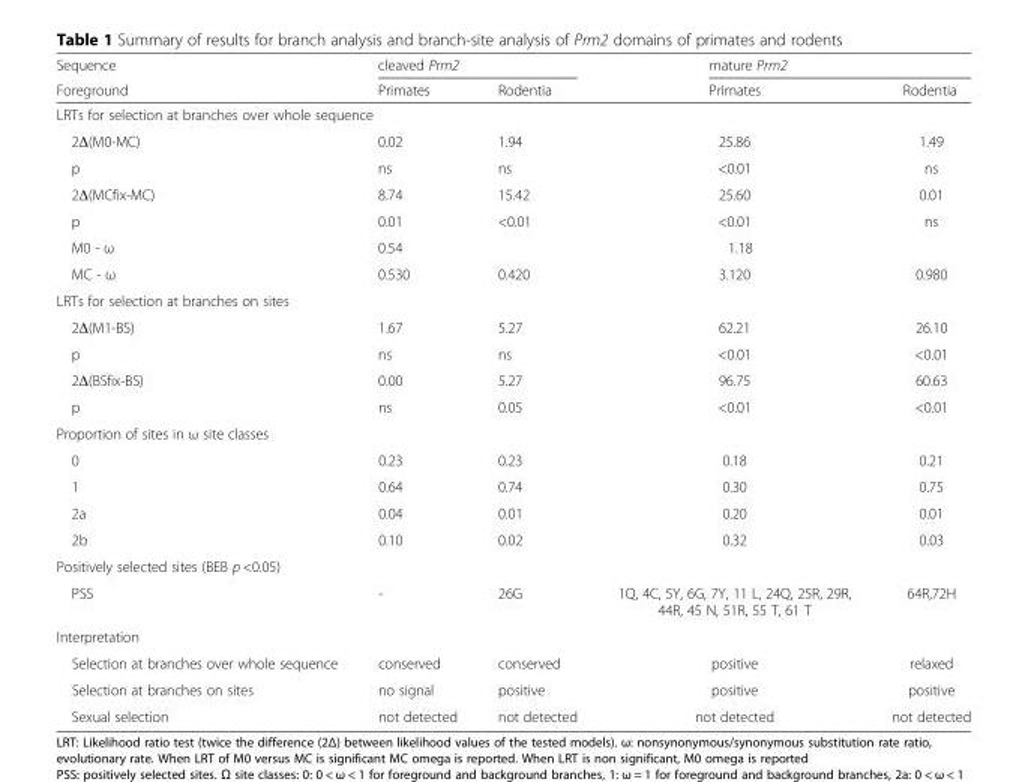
<table><thead><tr><td rowspan="2">Sequence Foreground</td><td colspan="2">cleaved Prm2</td><td colspan="2">mature Prm2</td></tr><tr><td>Primates</td><td>Rodentia</td><td>Primates</td><td>Rodentia</td></tr></thead><tbody><tr><td colspan="5">LRTs for selection at branches over whole sequence</td></tr><tr><td>2Δ(M0-MC)</td><td>0.02</td><td>1.94</td><td>25.86</td><td>1.49</td></tr><tr><td>p</td><td>ns</td><td>ns</td><td>&lt;0.01</td><td>ns</td></tr><tr><td>2Δ(MCfix-MC)</td><td>8.74</td><td>15.42</td><td>25.60</td><td>0.01</td></tr><tr><td>p</td><td>0.01</td><td>&lt;0.01</td><td>&lt;0.01</td><td>ns</td></tr><tr><td>M0 - ω</td><td colspan="2">0.54</td><td colspan="2">1.18</td></tr><tr><td>MC - ω</td><td>0.530</td><td>0.420</td><td>3.120</td><td>0.980</td></tr><tr><td colspan="5">LRTs for selection at branches on sites</td></tr><tr><td>2Δ(M1-BS)</td><td>1.67</td><td>5.27</td><td>62.21</td><td>26.10</td></tr><tr><td>p</td><td>ns</td><td>ns</td><td>&lt;0.01</td><td>&lt;0.01</td></tr><tr><td>2Δ(BSfix-BS)</td><td>0.00</td><td>5.27</td><td>96.75</td><td>60.63</td></tr><tr><td>p</td><td>ns</td><td>0.05</td><td>&lt;0.01</td><td>&lt;0.01</td></tr><tr><td colspan="5">Proportion of sites in ω site classes</td></tr><tr><td>0</td><td>0.23</td><td>0.23</td><td>0.18</td><td>0.21</td></tr><tr><td>1</td><td>0.64</td><td>0.74</td><td>0.30</td><td>0.75</td></tr><tr><td>2a</td><td>0.04</td><td>0.01</td><td>0.20</td><td>0.01</td></tr><tr><td>2b</td><td>0.10</td><td>0.02</td><td>0.32</td><td>0.03</td></tr><tr><td colspan="5">Positively selected sites (BEB p &lt;0.05)</td></tr><tr><td>PSS</td><td>-</td><td>26G</td><td>1Q, 4C, 5Y, 6G, 7Y, 11 L, 24Q, 25R, 29R, 44R, 45 N, 51R, 55 T, 61 T</td><td>64R,72H</td></tr><tr><td colspan="5">Interpretation</td></tr><tr><td>Selection at branches over whole sequence</td><td>conserved</td><td>conserved</td><td>positive</td><td>relaxed</td></tr><tr><td>Selection at branches on sites</td><td>no signal</td><td>positive</td><td>positive</td><td>positive</td></tr><tr><td>Sexual selection</td><td>not detected</td><td>not detected</td><td>not detected</td><td>not detected</td></tr></tbody></table>